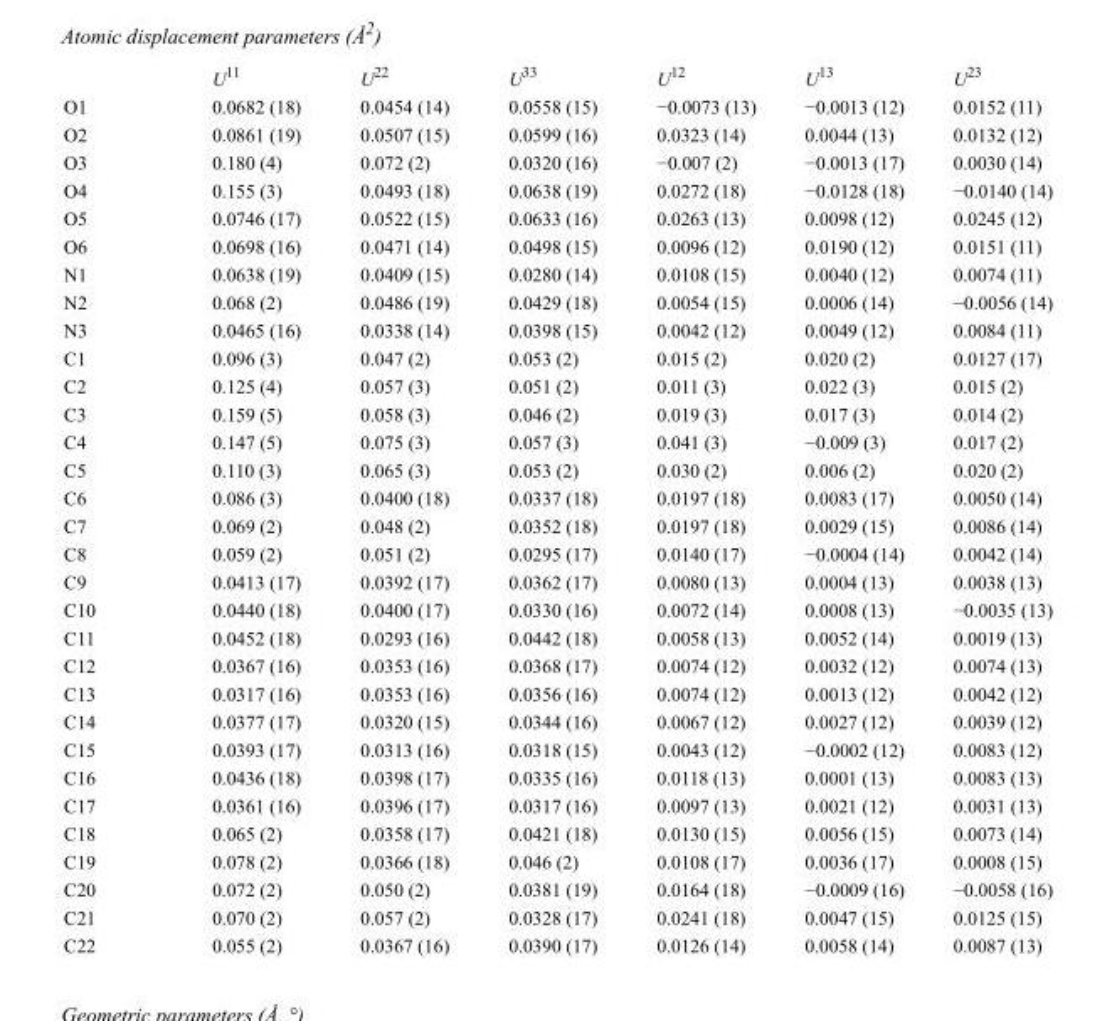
<table><thead><tr><td></td><td>U<sup>11</sup></td><td>U<sup>22</sup></td><td>U<sup>33</sup></td><td>U<sup>12</sup></td><td>U<sup>13</sup></td><td>U<sup>23</sup></td></tr></thead><tbody><tr><td>O1</td><td>0.0682 (18)</td><td>0.0454 (14)</td><td>0.0558 (15)</td><td>−0.0073 (13)</td><td>−0.0013 (12)</td><td>0.0152 (11)</td></tr><tr><td>O2</td><td>0.0861 (19)</td><td>0.0507 (15)</td><td>0.0599 (16)</td><td>0.0323 (14)</td><td>0.0044 (13)</td><td>0.0132 (12)</td></tr><tr><td>O3</td><td>0.180 (4)</td><td>0.072 (2)</td><td>0.0320 (16)</td><td>−0.007 (2)</td><td>−0.0013 (17)</td><td>0.0030 (14)</td></tr><tr><td>O4</td><td>0.155 (3)</td><td>0.0493 (18)</td><td>0.0638 (19)</td><td>0.0272 (18)</td><td>−0.0128 (18)</td><td>−0.0140 (14)</td></tr><tr><td>O5</td><td>0.0746 (17)</td><td>0.0522 (15)</td><td>0.0633 (16)</td><td>0.0263 (13)</td><td>0.0098 (12)</td><td>0.0245 (12)</td></tr><tr><td>O6</td><td>0.0698 (16)</td><td>0.0471 (14)</td><td>0.0498 (15)</td><td>0.0096 (12)</td><td>0.0190 (12)</td><td>0.0151 (11)</td></tr><tr><td>N1</td><td>0.0638 (19)</td><td>0.0409 (15)</td><td>0.0280 (14)</td><td>0.0108 (15)</td><td>0.0040 (12)</td><td>0.0074 (11)</td></tr><tr><td>N2</td><td>0.068 (2)</td><td>0.0486 (19)</td><td>0.0429 (18)</td><td>0.0054 (15)</td><td>0.0006 (14)</td><td>−0.0056 (14)</td></tr><tr><td>N3</td><td>0.0465 (16)</td><td>0.0338 (14)</td><td>0.0398 (15)</td><td>0.0042 (12)</td><td>0.0049 (12)</td><td>0.0084 (11)</td></tr><tr><td>C1</td><td>0.096 (3)</td><td>0.047 (2)</td><td>0.053 (2)</td><td>0.015 (2)</td><td>0.020 (2)</td><td>0.0127 (17)</td></tr><tr><td>C2</td><td>0.125 (4)</td><td>0.057 (3)</td><td>0.051 (2)</td><td>0.011 (3)</td><td>0.022 (3)</td><td>0.015 (2)</td></tr><tr><td>C3</td><td>0.159 (5)</td><td>0.058 (3)</td><td>0.046 (2)</td><td>0.019 (3)</td><td>0.017 (3)</td><td>0.014 (2)</td></tr><tr><td>C4</td><td>0.147 (5)</td><td>0.075 (3)</td><td>0.057 (3)</td><td>0.041 (3)</td><td>−0.009 (3)</td><td>0.017 (2)</td></tr><tr><td>C5</td><td>0.110 (3)</td><td>0.065 (3)</td><td>0.053 (2)</td><td>0.030 (2)</td><td>0.006 (2)</td><td>0.020 (2)</td></tr><tr><td>C6</td><td>0.086 (3)</td><td>0.0400 (18)</td><td>0.0337 (18)</td><td>0.0197 (18)</td><td>0.0083 (17)</td><td>0.0050 (14)</td></tr><tr><td>C7</td><td>0.069 (2)</td><td>0.048 (2)</td><td>0.0352 (18)</td><td>0.0197 (18)</td><td>0.0029 (15)</td><td>0.0086 (14)</td></tr><tr><td>C8</td><td>0.059 (2)</td><td>0.051 (2)</td><td>0.0295 (17)</td><td>0.0140 (17)</td><td>−0.0004 (14)</td><td>0.0042 (14)</td></tr><tr><td>C9</td><td>0.0413 (17)</td><td>0.0392 (17)</td><td>0.0362 (17)</td><td>0.0080 (13)</td><td>0.0004 (13)</td><td>0.0038 (13)</td></tr><tr><td>C10</td><td>0.0440 (18)</td><td>0.0400 (17)</td><td>0.0330 (16)</td><td>0.0072 (14)</td><td>0.0008 (13)</td><td>−0.0035 (13)</td></tr><tr><td>C11</td><td>0.0452 (18)</td><td>0.0293 (16)</td><td>0.0442 (18)</td><td>0.0058 (13)</td><td>0.0052 (14)</td><td>0.0019 (13)</td></tr><tr><td>C12</td><td>0.0367 (16)</td><td>0.0353 (16)</td><td>0.0368 (17)</td><td>0.0074 (12)</td><td>0.0032 (12)</td><td>0.0074 (13)</td></tr><tr><td>C13</td><td>0.0317 (16)</td><td>0.0353 (16)</td><td>0.0356 (16)</td><td>0.0074 (12)</td><td>0.0013 (12)</td><td>0.0042 (12)</td></tr><tr><td>C14</td><td>0.0377 (17)</td><td>0.0320 (15)</td><td>0.0344 (16)</td><td>0.0067 (12)</td><td>0.0027 (12)</td><td>0.0039 (12)</td></tr><tr><td>C15</td><td>0.0393 (17)</td><td>0.0313 (16)</td><td>0.0318 (15)</td><td>0.0043 (12)</td><td>−0.0002 (12)</td><td>0.0083 (12)</td></tr><tr><td>C16</td><td>0.0436 (18)</td><td>0.0398 (17)</td><td>0.0335 (16)</td><td>0.0118 (13)</td><td>0.0001 (13)</td><td>0.0083 (13)</td></tr><tr><td>C17</td><td>0.0361 (16)</td><td>0.0396 (17)</td><td>0.0317 (16)</td><td>0.0097 (13)</td><td>0.0021 (12)</td><td>0.0031 (13)</td></tr><tr><td>C18</td><td>0.065 (2)</td><td>0.0358 (17)</td><td>0.0421 (18)</td><td>0.0130 (15)</td><td>0.0056 (15)</td><td>0.0073 (14)</td></tr><tr><td>C19</td><td>0.078 (2)</td><td>0.0366 (18)</td><td>0.046 (2)</td><td>0.0108 (17)</td><td>0.0036 (17)</td><td>0.0008 (15)</td></tr><tr><td>C20</td><td>0.072 (2)</td><td>0.050 (2)</td><td>0.0381 (19)</td><td>0.0164 (18)</td><td>−0.0009 (16)</td><td>−0.0058 (16)</td></tr><tr><td>C21</td><td>0.070 (2)</td><td>0.057 (2)</td><td>0.0328 (17)</td><td>0.0241 (18)</td><td>0.0047 (15)</td><td>0.0125 (15)</td></tr><tr><td>C22</td><td>0.055 (2)</td><td>0.0367 (16)</td><td>0.0390 (17)</td><td>0.0126 (14)</td><td>0.0058 (14)</td><td>0.0087 (13)</td></tr></tbody></table>